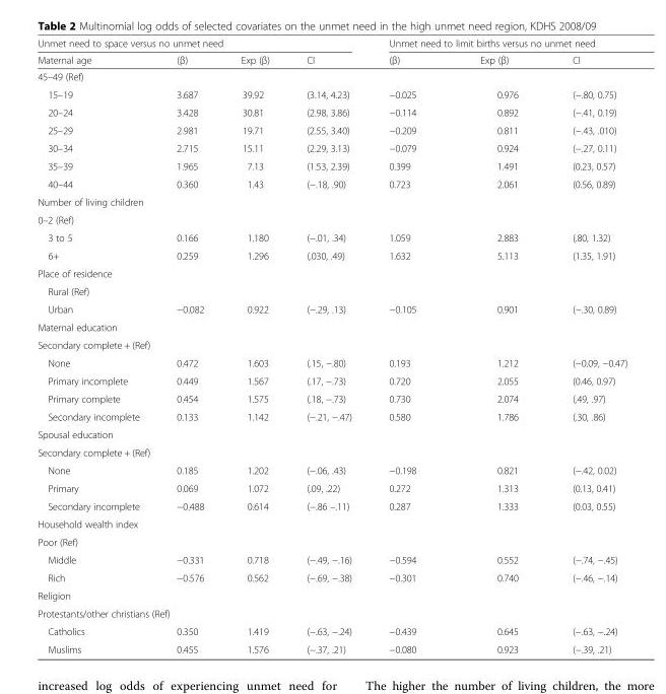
<table><thead><tr><td colspan="4">Unmet need to space versus no unmet need</td><td colspan="3">Unmet need to limit births versus no unmet need</td></tr><tr><td>Maternal age</td><td>(β)</td><td>Exp (β)</td><td>CI</td><td>(β)</td><td>Exp (β)</td><td>CI</td></tr></thead><tbody><tr><td colspan="7">45–49 (Ref)</td></tr><tr><td>15–19</td><td>3.687</td><td>39.92</td><td>(3.14, 4.23)</td><td>−0.025</td><td>0.976</td><td>(−.80, 0.75)</td></tr><tr><td>20–24</td><td>3.428</td><td>30.81</td><td>(2.98, 3.86)</td><td>−0.114</td><td>0.892</td><td>(−.41, 0.19)</td></tr><tr><td>25–29</td><td>2.981</td><td>19.71</td><td>(2.55, 3.40)</td><td>−0.209</td><td>0.811</td><td>(−.43, .010)</td></tr><tr><td>30–34</td><td>2.715</td><td>15.11</td><td>(2.29, 3.13)</td><td>−0.079</td><td>0.924</td><td>(−.27, 0.11)</td></tr><tr><td>35–39</td><td>1.965</td><td>7.13</td><td>(1.53, 2.39)</td><td>0.399</td><td>1.491</td><td>(0.23, 0.57)</td></tr><tr><td>40–44</td><td>0.360</td><td>1.43</td><td>(−.18, .90)</td><td>0.723</td><td>2.061</td><td>(0.56, 0.89)</td></tr><tr><td colspan="7">Number of living children</td></tr><tr><td colspan="7">0–2 (Ref)</td></tr><tr><td>3 to 5</td><td>0.166</td><td>1.180</td><td>(−.01, .34)</td><td>1.059</td><td>2.883</td><td>(.80, 1.32)</td></tr><tr><td>6+</td><td>0.259</td><td>1.296</td><td>(.030, .49)</td><td>1.632</td><td>5.113</td><td>(1.35, 1.91)</td></tr><tr><td colspan="7">Place of residence</td></tr><tr><td colspan="7">Rural (Ref)</td></tr><tr><td>Urban</td><td>−0.082</td><td>0.922</td><td>(−.29, .13)</td><td>−0.105</td><td>0.901</td><td>(−.30, 0.89)</td></tr><tr><td colspan="7">Maternal education</td></tr><tr><td colspan="7">Secondary complete + (Ref)</td></tr><tr><td>None</td><td>0.472</td><td>1.603</td><td>(.15, −.80)</td><td>0.193</td><td>1.212</td><td>(−0.09, −0.47)</td></tr><tr><td>Primary incomplete</td><td>0.449</td><td>1.567</td><td>(.17, −.73)</td><td>0.720</td><td>2.055</td><td>(0.46, 0.97)</td></tr><tr><td>Primary complete</td><td>0.454</td><td>1.575</td><td>(.18, −.73)</td><td>0.730</td><td>2.074</td><td>(.49, .97)</td></tr><tr><td>Secondary incomplete</td><td>0.133</td><td>1.142</td><td>(−.21, −.47)</td><td>0.580</td><td>1.786</td><td>(.30, .86)</td></tr><tr><td colspan="7">Spousal education</td></tr><tr><td colspan="7">Secondary complete + (Ref)</td></tr><tr><td>None</td><td>0.185</td><td>1.202</td><td>(−.06, .43)</td><td>−0.198</td><td>0.821</td><td>(−.42, 0.02)</td></tr><tr><td>Primary</td><td>0.069</td><td>1.072</td><td>(.09, .22)</td><td>0.272</td><td>1.313</td><td>(0.13, 0.41)</td></tr><tr><td>Secondary incomplete</td><td>−0.488</td><td>0.614</td><td>(−.86 –.11)</td><td>0.287</td><td>1.333</td><td>(0.03, 0.55)</td></tr><tr><td colspan="7">Household wealth index</td></tr><tr><td colspan="7">Poor (Ref)</td></tr><tr><td>Middle</td><td>−0.331</td><td>0.718</td><td>(−.49, −.16)</td><td>−0.594</td><td>0.552</td><td>(−.74, −.45)</td></tr><tr><td>Rich</td><td>−0.576</td><td>0.562</td><td>(−.69, −.38)</td><td>−0.301</td><td>0.740</td><td>(−.46, −.14)</td></tr><tr><td colspan="7">Religion</td></tr><tr><td colspan="7">Protestants/other christians (Ref)</td></tr><tr><td>Catholics</td><td>0.350</td><td>1.419</td><td>(−.63, −.24)</td><td>−0.439</td><td>0.645</td><td>(−.63, −.24)</td></tr><tr><td>Muslims</td><td>0.455</td><td>1.576</td><td>(−.37, .21)</td><td>−0.080</td><td>0.923</td><td>(−.39, .21)</td></tr></tbody></table>